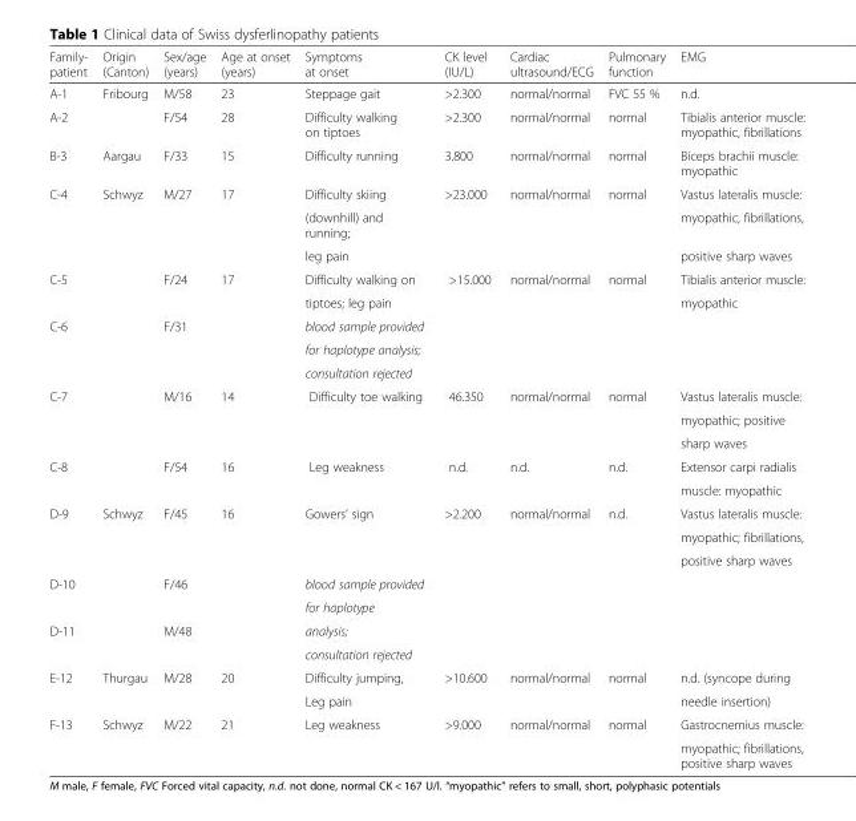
<table><thead><tr><td>Family- patient</td><td>Origin (Canton)</td><td>Sex/age (years)</td><td>Age at onset (years)</td><td>Symptoms at onset</td><td>CK level (IU/L)</td><td>Cardiac ultrasound/ECG</td><td>Pulmonary function</td><td>EMG</td></tr></thead><tbody><tr><td>A-1</td><td>Fribourg</td><td>M/58</td><td>23</td><td>Steppage gait</td><td>&gt;2.300</td><td>normal/normal</td><td>FVC 55 %</td><td>n.d.</td></tr><tr><td>A-2</td><td></td><td>F/54</td><td>28</td><td>Difficulty walking on tiptoes</td><td>&gt;2.300</td><td>normal/normal</td><td>normal</td><td>Tibialis anterior muscle: myopathic, fibrillations</td></tr><tr><td>B-3</td><td>Aargau</td><td>F/33</td><td>15</td><td>Difficulty running</td><td>3.800</td><td>normal/normal</td><td>normal</td><td>Biceps brachii muscle: myopathic</td></tr><tr><td rowspan="3">C-4</td><td>Schwyz</td><td>M/27</td><td>17</td><td>Difficulty skiing</td><td>&gt;23.000</td><td>normal/normal</td><td>normal</td><td>Vastus lateralis muscle:</td></tr><tr><td></td><td></td><td></td><td>(downhill) and running;</td><td></td><td></td><td></td><td>myopathic, fibrillations,</td></tr><tr><td></td><td></td><td></td><td>leg pain</td><td></td><td></td><td></td><td>positive sharp waves</td></tr><tr><td rowspan="2">C-5</td><td></td><td>F/24</td><td>17</td><td>Difficulty walking on</td><td>&gt;15.000</td><td>normal/normal</td><td>normal</td><td>Tibialis anterior muscle:</td></tr><tr><td></td><td></td><td></td><td>tiptoes; leg pain</td><td></td><td></td><td></td><td>myopathic</td></tr><tr><td rowspan="3">C-6</td><td></td><td>F/31</td><td></td><td>blood sample provided</td><td></td><td></td><td></td><td></td></tr><tr><td></td><td></td><td></td><td>for haplotype analysis;</td><td></td><td></td><td></td><td></td></tr><tr><td></td><td></td><td></td><td>consultation rejected</td><td></td><td></td><td></td><td></td></tr><tr><td rowspan="3">C-7</td><td></td><td>M/16</td><td>14</td><td>Difficulty toe walking</td><td>46.350</td><td>normal/normal</td><td>normal</td><td>Vastus lateralis muscle:</td></tr><tr><td></td><td></td><td></td><td></td><td></td><td></td><td></td><td>myopathic; positive</td></tr><tr><td></td><td></td><td></td><td></td><td></td><td></td><td></td><td>sharp waves</td></tr><tr><td rowspan="2">C-8</td><td></td><td>F/54</td><td>16</td><td>Leg weakness</td><td>n.d.</td><td>n.d.</td><td>n.d.</td><td>Extensor carpi radialis</td></tr><tr><td></td><td></td><td></td><td></td><td></td><td></td><td></td><td>muscle: myopathic</td></tr><tr><td rowspan="3">D-9</td><td>Schwyz</td><td>F/45</td><td>16</td><td>Gowers’ sign</td><td>&gt;2.200</td><td>normal/normal</td><td>n.d.</td><td>Vastus lateralis muscle:</td></tr><tr><td></td><td></td><td></td><td></td><td></td><td></td><td></td><td>myopathic; fibrillations,</td></tr><tr><td></td><td></td><td></td><td></td><td></td><td></td><td></td><td>positive sharp waves</td></tr><tr><td rowspan="2">D-10</td><td></td><td>F/46</td><td></td><td>blood sample provided</td><td></td><td></td><td></td><td></td></tr><tr><td></td><td></td><td></td><td>for haplotype</td><td></td><td></td><td></td><td></td></tr><tr><td rowspan="2">D-11</td><td></td><td>M/48</td><td></td><td>analysis;</td><td></td><td></td><td></td><td></td></tr><tr><td></td><td></td><td></td><td>consultation rejected</td><td></td><td></td><td></td><td></td></tr><tr><td rowspan="2">E-12</td><td>Thurgau</td><td>M/28</td><td>20</td><td>Difficulty jumping,</td><td>&gt;10.600</td><td>normal/normal</td><td>normal</td><td>n.d. (syncope during</td></tr><tr><td></td><td></td><td></td><td>Leg pain</td><td></td><td></td><td></td><td>needle insertion)</td></tr><tr><td rowspan="2">F-13</td><td>Schwyz</td><td>M/22</td><td>21</td><td>Leg weakness</td><td>&gt;9.000</td><td>normal/normal</td><td>normal</td><td>Gastrocnemius muscle:</td></tr><tr><td></td><td></td><td></td><td></td><td></td><td></td><td></td><td>myopathic; fibrillations, positive sharp waves</td></tr></tbody></table>